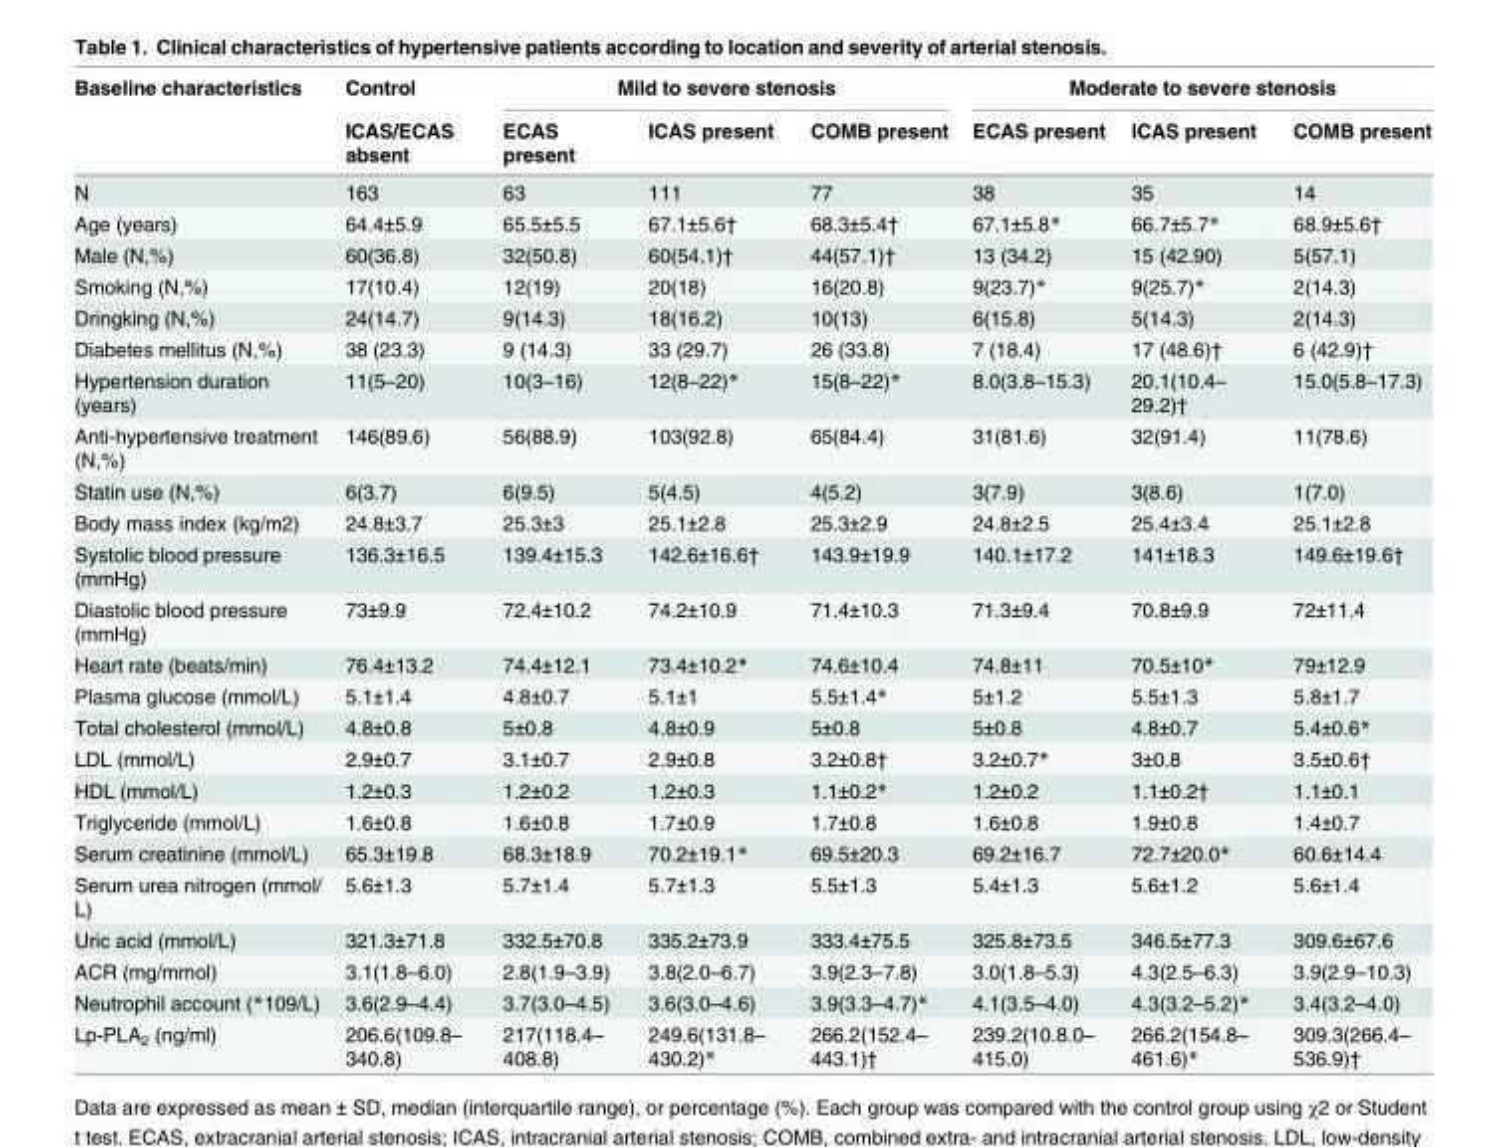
<table><thead><tr><td rowspan="2">Baseline characteristics</td><td rowspan="2">Control ICAS/ECAS absent</td><td colspan="3">Mild to severe stenosis</td><td colspan="3">Moderate to severe stenosis</td></tr><tr><td>ECAS present</td><td>ICAS present</td><td>COMB present</td><td>ECAS present</td><td>ICAS present</td><td>COMB present</td></tr></thead><tbody><tr><td>N</td><td>163</td><td>63</td><td>111</td><td>77</td><td>38</td><td>35</td><td>14</td></tr><tr><td>Age (years)</td><td>64.4±5.9</td><td>65.5±5.5</td><td>67.1±5.6†</td><td>68.3±5.4†</td><td>67.1±5.8*</td><td>66.7±5.7*</td><td>68.9±5.6†</td></tr><tr><td>Male (N,%)</td><td>60(36.8)</td><td>32(50.8)</td><td>60(54.1)†</td><td>44(57.1)†</td><td>13 (34.2)</td><td>15 (42.90)</td><td>5(57.1)</td></tr><tr><td>Smoking (N,%)</td><td>17(10.4)</td><td>12(19)</td><td>20(18)</td><td>16(20.8)</td><td>9(23.7)*</td><td>9(25.7)*</td><td>2(14.3)</td></tr><tr><td>Dringking (N,%)</td><td>24(14.7)</td><td>9(14.3)</td><td>18(16.2)</td><td>10(13)</td><td>6(15.8)</td><td>5(14.3)</td><td>2(14.3)</td></tr><tr><td>Diabetes mellitus (N,%)</td><td>38 (23.3)</td><td>9 (14.3)</td><td>33 (29.7)</td><td>26 (33.8)</td><td>7 (18.4)</td><td>17 (48.6)†</td><td>6 (42.9)†</td></tr><tr><td>Hypertension duration (years)</td><td>11(5–20)</td><td>10(3–16)</td><td>12(8–22)*</td><td>15(8–22)*</td><td>8.0(3.8–15.3)</td><td>20.1(10.4– 29.2)†</td><td>15.0(5.8–17.3)</td></tr><tr><td>Anti-hypertensive treatment (N,%)</td><td>146(89.6)</td><td>56(88.9)</td><td>103(92.8)</td><td>65(84.4)</td><td>31(81.6)</td><td>32(91.4)</td><td>11(78.6)</td></tr><tr><td>Statin use (N,%)</td><td>6(3.7)</td><td>6(9.5)</td><td>5(4.5)</td><td>4(5.2)</td><td>3(7.9)</td><td>3(8.6)</td><td>1(7.0)</td></tr><tr><td>Body mass index (kg/m2)</td><td>24.8±3.7</td><td>25.3±3</td><td>25.1±2.8</td><td>25.3±2.9</td><td>24.8±2.5</td><td>25.4±3.4</td><td>25.1±2.8</td></tr><tr><td>Systolic blood pressure (mmHg)</td><td>136.3±16.5</td><td>139.4±15.3</td><td>142.6±16.6†</td><td>143.9±19.9</td><td>140.1±17.2</td><td>141±18.3</td><td>149.6±19.6†</td></tr><tr><td>Diastolic blood pressure (mmHg)</td><td>73±9.9</td><td>72.4±10.2</td><td>74.2±10.9</td><td>71.4±10.3</td><td>71.3±9.4</td><td>70.8±9.9</td><td>72±11.4</td></tr><tr><td>Heart rate (beats/min)</td><td>76.4±13.2</td><td>74.4±12.1</td><td>73.4±10.2*</td><td>74.6±10.4</td><td>74.8±11</td><td>70.5±10*</td><td>79±12.9</td></tr><tr><td>Plasma glucose (mmol/L)</td><td>5.1±1.4</td><td>4.8±0.7</td><td>5.1±1</td><td>5.5±1.4*</td><td>5±1.2</td><td>5.5±1.3</td><td>5.8±1.7</td></tr><tr><td>Total cholesterol (mmol/L)</td><td>4.8±0.8</td><td>5±0.8</td><td>4.8±0.9</td><td>5±0.8</td><td>5±0.8</td><td>4.8±0.7</td><td>5.4±0.6*</td></tr><tr><td>LDL (mmol/L)</td><td>2.9±0.7</td><td>3.1±0.7</td><td>2.9±0.8</td><td>3.2±0.8†</td><td>3.2±0.7*</td><td>3±0.8</td><td>3.5±0.6†</td></tr><tr><td>HDL (mmol/L)</td><td>1.2±0.3</td><td>1.2±0.2</td><td>1.2±0.3</td><td>1.1±0.2*</td><td>1.2±0.2</td><td>1.1±0.2†</td><td>1.1±0.1</td></tr><tr><td>Triglyceride (mmol/L)</td><td>1.6±0.8</td><td>1.6±0.8</td><td>1.7±0.9</td><td>1.7±0.8</td><td>1.6±0.8</td><td>1.9±0.8</td><td>1.4±0.7</td></tr><tr><td>Serum creatinine (mmol/L)</td><td>65.3±19.8</td><td>68.3±18.9</td><td>70.2±19.1*</td><td>69.5±20.3</td><td>69.2±16.7</td><td>72.7±20.0*</td><td>60.6±14.4</td></tr><tr><td>Serum urea nitrogen (mmol/ L)</td><td>5.6±1.3</td><td>5.7±1.4</td><td>5.7±1.3</td><td>5.5±1.3</td><td>5.4±1.3</td><td>5.6±1.2</td><td>5.6±1.4</td></tr><tr><td>Uric acid (mmol/L)</td><td>321.3±71.8</td><td>332.5±70.8</td><td>335.2±73.9</td><td>333.4±75.5</td><td>325.8±73.5</td><td>346.5±77.3</td><td>309.6±67.6</td></tr><tr><td>ACR (mg/mmol)</td><td>3.1(1.8–6.0)</td><td>2.8(1.9–3.9)</td><td>3.8(2.0–6.7)</td><td>3.9(2.3–7.8)</td><td>3.0(1.8–5.3)</td><td>4.3(2.5–6.3)</td><td>3.9(2.9–10.3)</td></tr><tr><td>Neutrophil account (*109/L)</td><td>3.6(2.9–4.4)</td><td>3.7(3.0–4.5)</td><td>3.6(3.0–4.6)</td><td>3.9(3.3–4.7)*</td><td>4.1(3.5–4.0)</td><td>4.3(3.2–5.2)*</td><td>3.4(3.2–4.0)</td></tr><tr><td>Lp-PLA<sub>2</sub> (ng/ml)</td><td>206.6(109.8– 340.8)</td><td>217(118.4– 408.8)</td><td>249.6(131.8– 430.2)*</td><td>266.2(152.4– 443.1)†</td><td>239.2(10.8.0– 415.0)</td><td>266.2(154.8– 461.6)*</td><td>309.3(266.4– 536.9)†</td></tr></tbody></table>